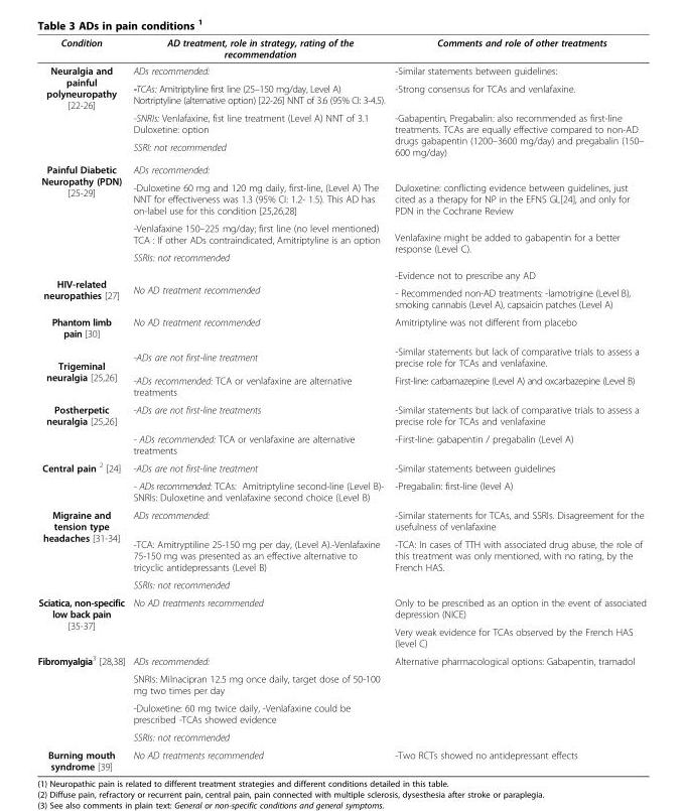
<table><thead><tr><td>Condition</td><td>AD treatment, role in strategy, rating of the recommendation</td><td>Comments and role of other treatments</td></tr></thead><tbody><tr><td rowspan="4">Neuralgia and painful polyneuropathy [22-26]</td><td>ADs recommended:</td><td>-Similar statements between guidelines:</td></tr><tr><td>-TCAs: Amitriptyline first line (25–150 mg/day, Level A) Nortriptyline (alternative option) [22-26] NNT of 3.6 (95% CI: 3-4.5).</td><td>-Strong consensus for TCAs and venlafaxine.</td></tr><tr><td>-SNRIs: Venlafaxine, fist line treatment (Level A) NNT of 3.1 Duloxetine: option</td><td rowspan="2">-Gabapentin, Pregabalin: also recommended as first-line treatments. TCAs are equally effective compared to non-AD drugs gabapentin (1200–3600 mg/day) and pregabalin (150– 600 mg/day)</td></tr><tr><td>SSRI: not recommended</td></tr><tr><td rowspan="4">Painful Diabetic Neuropathy (PDN) [25-29]</td><td>ADs recommended:</td><td></td></tr><tr><td>-Duloxetine 60 mg and 120 mg daily, first-line, (Level A) The NNT for effectiveness was 1.3 (95% CI: 1.2- 1.5). This AD has on-label use for this condition [25,26,28]</td><td>Duloxetine: conflicting evidence between guidelines, just cited as a therapy for NP in the EFNS GL[24], and only for PDN in the Cochrane Review</td></tr><tr><td>-Venlafaxine 150–225 mg/day; first line (no level mentioned) TCA : If other ADs contraindicated, Amitriptyline is an option</td><td rowspan="2">Venlafaxine might be added to gabapentin for a better response (Level C).</td></tr><tr><td>SSRIs: not recommended</td></tr><tr><td rowspan="2">HIV-related neuropathies [27]</td><td rowspan="2">No AD treatment recommended</td><td>-Evidence not to prescribe any AD</td></tr><tr><td>- Recommended non-AD treatments: -lamotrigine (Level B), smoking cannabis (Level A), capsaicin patches (Level A)</td></tr><tr><td>Phantom limb pain [30]</td><td>No AD treatment recommended</td><td>Amitriptyline was not different from placebo</td></tr><tr><td rowspan="2">Trigeminal neuralgia [25,26]</td><td>-ADs are not first-line treatment</td><td>-Similar statements but lack of comparative trials to assess a precise role for TCAs and venlafaxine.</td></tr><tr><td>-ADs recommended: TCA or venlafaxine are alternative treatments</td><td>First-line: carbamazepine (Level A) and oxcarbazepine (Level B)</td></tr><tr><td rowspan="2">Postherpetic neuralgia [25,26]</td><td>-ADs are not first-line treatments</td><td>-Similar statements but lack of comparative trials to assess a precise role for TCAs and venlafaxine</td></tr><tr><td>- ADs recommended: TCA or venlafaxine are alternative treatments</td><td>-First-line: gabapentin / pregabalin (Level A)</td></tr><tr><td rowspan="2">Central pain <sup>2</sup> [24]</td><td>-ADs are not first-line treatment</td><td>-Similar statements between guidelines</td></tr><tr><td>- ADs recommended: TCAs: Amitriptyline second-line (Level B)- SNRIs: Duloxetine and venlafaxine second choice (Level B)</td><td>-Pregabalin: first-line (level A)</td></tr><tr><td rowspan="3">Migraine and tension type headaches [31-34]</td><td>ADs recommended:</td><td>-Similar statements for TCAs, and SSRIs. Disagreement for the usefulness of venlafaxine</td></tr><tr><td>-TCA: Amitryptiline 25-150 mg per day, (Level A).-Venlafaxine 75-150 mg was presented as an effective alternative to tricyclic antidepressants (Level B)</td><td rowspan="2">-TCA: In cases of TTH with associated drug abuse, the role of this treatment was only mentioned, with no rating, by the French HAS.</td></tr><tr><td>SSRIs: not recommended</td></tr><tr><td rowspan="2">Sciatica, non-specific low back pain [35-37]</td><td rowspan="2">No AD treatments recommended</td><td>Only to be prescribed as an option in the event of associated depression (NICE)</td></tr><tr><td>Very weak evidence for TCAs observed by the French HAS (level C)</td></tr><tr><td rowspan="4">Fibromyalgia<sup>3</sup> [28,38]</td><td>ADs recommended:</td><td rowspan="4">Alternative pharmacological options: Gabapentin, tramadol</td></tr><tr><td>SNRIs: Milnacipran 12.5 mg once daily, target dose of 50-100 mg two times per day</td></tr><tr><td>-Duloxetine: 60 mg twice daily, -Venlafaxine could be prescribed -TCAs showed evidence</td></tr><tr><td>SSRIs: not recommended</td></tr><tr><td>Burning mouth syndrome [39]</td><td>No AD treatments recommended</td><td>-Two RCTs showed no antidepressant effects</td></tr></tbody></table>